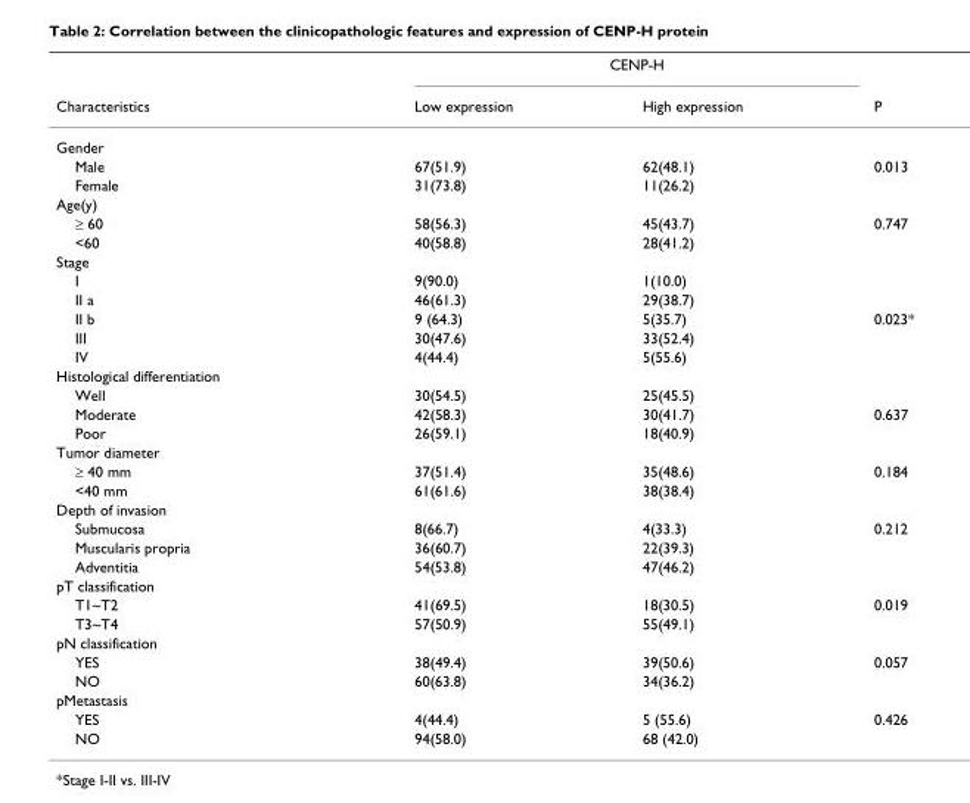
<table><thead><tr><td rowspan="2">Characteristics</td><td colspan="2">CENP-H</td><td rowspan="2">P</td></tr><tr><td>Low expression</td><td>High expression</td></tr></thead><tbody><tr><td colspan="4">Gender</td></tr><tr><td>Male</td><td>67(51.9)</td><td>62(48.1)</td><td>0.013</td></tr><tr><td>Female</td><td>31(73.8)</td><td>11(26.2)</td><td></td></tr><tr><td colspan="4">Age(y)</td></tr><tr><td>≥ 60</td><td>58(56.3)</td><td>45(43.7)</td><td>0.747</td></tr><tr><td>&lt;60</td><td>40(58.8)</td><td>28(41.2)</td><td></td></tr><tr><td colspan="4">Stage</td></tr><tr><td>I</td><td>9(90.0)</td><td>1(10.0)</td><td></td></tr><tr><td>II a</td><td>46(61.3)</td><td>29(38.7)</td><td></td></tr><tr><td>II b</td><td>9 (64.3)</td><td>5(35.7)</td><td>0.023*</td></tr><tr><td>III</td><td>30(47.6)</td><td>33(52.4)</td><td></td></tr><tr><td>IV</td><td>4(44.4)</td><td>5(55.6)</td><td></td></tr><tr><td colspan="4">Histological differentiation</td></tr><tr><td>Well</td><td>30(54.5)</td><td>25(45.5)</td><td></td></tr><tr><td>Moderate</td><td>42(58.3)</td><td>30(41.7)</td><td>0.637</td></tr><tr><td>Poor</td><td>26(59.1)</td><td>18(40.9)</td><td></td></tr><tr><td colspan="4">Tumor diameter</td></tr><tr><td>≥ 40 mm</td><td>37(51.4)</td><td>35(48.6)</td><td>0.184</td></tr><tr><td>&lt;40 mm</td><td>61(61.6)</td><td>38(38.4)</td><td></td></tr><tr><td colspan="4">Depth of invasion</td></tr><tr><td>Submucosa</td><td>8(66.7)</td><td>4(33.3)</td><td>0.212</td></tr><tr><td>Muscularis propria</td><td>36(60.7)</td><td>22(39.3)</td><td></td></tr><tr><td>Adventitia</td><td>54(53.8)</td><td>47(46.2)</td><td></td></tr><tr><td colspan="4">pT classification</td></tr><tr><td>T1~T2</td><td>41(69.5)</td><td>18(30.5)</td><td>0.019</td></tr><tr><td>T3~T4</td><td>57(50.9)</td><td>55(49.1)</td><td></td></tr><tr><td colspan="4">pN classification</td></tr><tr><td>YES</td><td>38(49.4)</td><td>39(50.6)</td><td>0.057</td></tr><tr><td>NO</td><td>60(63.8)</td><td>34(36.2)</td><td></td></tr><tr><td colspan="4">pMetastasis</td></tr><tr><td>YES</td><td>4(44.4)</td><td>5 (55.6)</td><td>0.426</td></tr><tr><td>NO</td><td>94(58.0)</td><td>68 (42.0)</td><td></td></tr></tbody></table>